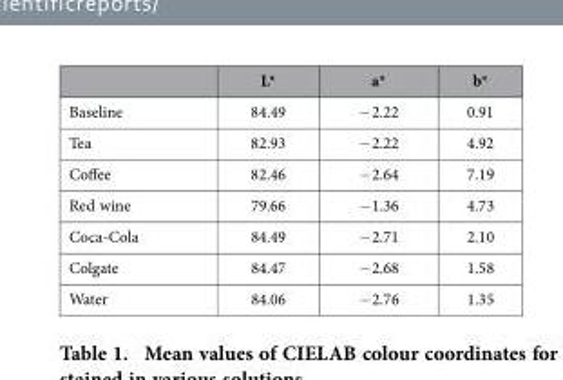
<table><thead><tr><td></td><td>L*</td><td>a*</td><td>b*</td></tr></thead><tbody><tr><td>Baseline</td><td>84.49</td><td>− 2.22</td><td>0.91</td></tr><tr><td>Tea</td><td>82.93</td><td>− 2.22</td><td>4.92</td></tr><tr><td>Coffee</td><td>82.46</td><td>− 2.64</td><td>7.19</td></tr><tr><td>Red wine</td><td>79.66</td><td>− 1.36</td><td>4.73</td></tr><tr><td>Coca-Cola</td><td>84.49</td><td>− 2.71</td><td>2.10</td></tr><tr><td>Colgate</td><td>84.47</td><td>− 2.68</td><td>1.58</td></tr><tr><td>Water</td><td>84.06</td><td>− 2.76</td><td>1.35</td></tr></tbody></table>